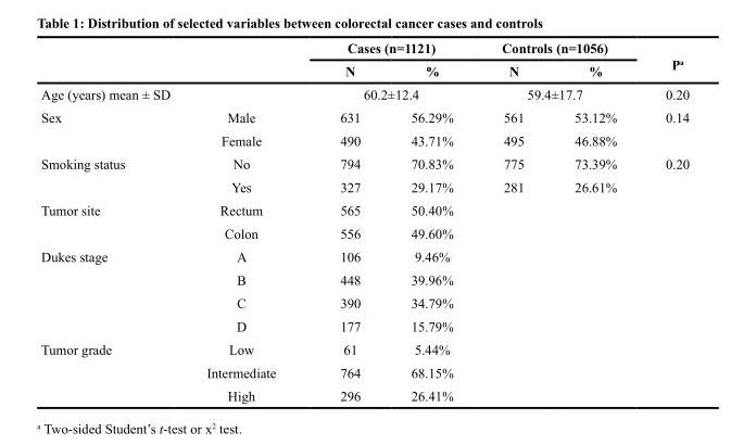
<table><thead><tr><td rowspan="2"></td><td rowspan="2"></td><td colspan="2">Cases (n=1121)</td><td colspan="2">Controls (n=1056)</td><td rowspan="2">P<sup>a</sup></td></tr><tr><td>N</td><td>%</td><td>N</td><td>%</td></tr></thead><tbody><tr><td colspan="2">Age (years) mean ± SD</td><td colspan="2">60.2±12.4</td><td colspan="2">59.4±17.7</td><td>0.20</td></tr><tr><td rowspan="2">Sex</td><td>Male</td><td>631</td><td>56.29%</td><td>561</td><td>53.12%</td><td>0.14</td></tr><tr><td>Female</td><td>490</td><td>43.71%</td><td>495</td><td>46.88%</td><td></td></tr><tr><td rowspan="2">Smoking status</td><td>No</td><td>794</td><td>70.83%</td><td>775</td><td>73.39%</td><td>0.20</td></tr><tr><td>Yes</td><td>327</td><td>29.17%</td><td>281</td><td>26.61%</td><td></td></tr><tr><td rowspan="2">Tumor site</td><td>Rectum</td><td>565</td><td>50.40%</td><td></td><td></td><td></td></tr><tr><td>Colon</td><td>556</td><td>49.60%</td><td></td><td></td><td></td></tr><tr><td rowspan="4">Dukes stage</td><td>A</td><td>106</td><td>9.46%</td><td></td><td></td><td></td></tr><tr><td>B</td><td>448</td><td>39.96%</td><td></td><td></td><td></td></tr><tr><td>C</td><td>390</td><td>34.79%</td><td></td><td></td><td></td></tr><tr><td>D</td><td>177</td><td>15.79%</td><td></td><td></td><td></td></tr><tr><td rowspan="3">Tumor grade</td><td>Low</td><td>61</td><td>5.44%</td><td></td><td></td><td></td></tr><tr><td>Intermediate</td><td>764</td><td>68.15%</td><td></td><td></td><td></td></tr><tr><td>High</td><td>296</td><td>26.41%</td><td></td><td></td><td></td></tr></tbody></table>